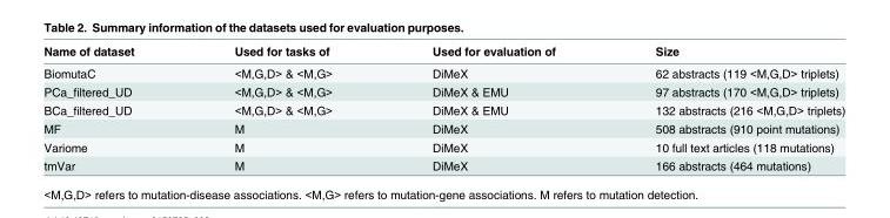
<table><thead><tr><td>Name of dataset</td><td>Used for tasks of</td><td>Used for evaluation of</td><td>Size</td></tr></thead><tbody><tr><td>BiomutaC</td><td>&lt;M,G,D&gt; &amp; &lt;M,G&gt;</td><td>DiMeX</td><td>62 abstracts (119 &lt;M,G,D&gt; triplets)</td></tr><tr><td>PCa_filtered_UD</td><td>&lt;M,G,D&gt; &amp; &lt;M,G&gt;</td><td>DiMeX &amp; EMU</td><td>97 abstracts (170 &lt;M,G,D&gt; triplets)</td></tr><tr><td>BCa_filtered_UD</td><td>&lt;M,G,D&gt; &amp; &lt;M,G&gt;</td><td>DiMeX &amp; EMU</td><td>132 abstracts (216 &lt;M,G,D&gt; triplets)</td></tr><tr><td>MF</td><td>M</td><td>DiMeX</td><td>508 abstracts (910 point mutations)</td></tr><tr><td>Variome</td><td>M</td><td>DiMeX</td><td>10 full text articles (118 mutations)</td></tr><tr><td>tmVar</td><td>M</td><td>DiMeX</td><td>166 abstracts (464 mutations)</td></tr></tbody></table>